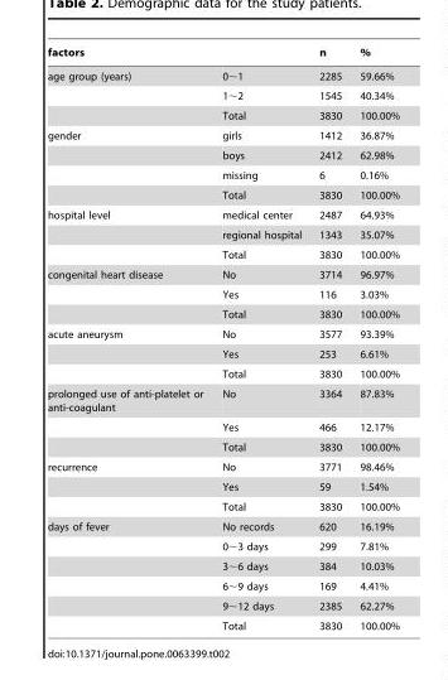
<table><thead><tr><td>factors</td><td></td><td>n</td><td>%</td></tr></thead><tbody><tr><td rowspan="3">age group (years)</td><td>0∼1</td><td>2285</td><td>59.66%</td></tr><tr><td>1∼2</td><td>1545</td><td>40.34%</td></tr><tr><td>Total</td><td>3830</td><td>100.00%</td></tr><tr><td rowspan="4">gender</td><td>girls</td><td>1412</td><td>36.87%</td></tr><tr><td>boys</td><td>2412</td><td>62.98%</td></tr><tr><td>missing</td><td>6</td><td>0.16%</td></tr><tr><td>Total</td><td>3830</td><td>100.00%</td></tr><tr><td rowspan="3">hospital level</td><td>medical center</td><td>2487</td><td>64.93%</td></tr><tr><td>regional hospital</td><td>1343</td><td>35.07%</td></tr><tr><td>Total</td><td>3830</td><td>100.00%</td></tr><tr><td rowspan="3">congenital heart disease</td><td>No</td><td>3714</td><td>96.97%</td></tr><tr><td>Yes</td><td>116</td><td>3.03%</td></tr><tr><td>Total</td><td>3830</td><td>100.00%</td></tr><tr><td rowspan="3">acute aneurysm</td><td>No</td><td>3577</td><td>93.39%</td></tr><tr><td>Yes</td><td>253</td><td>6.61%</td></tr><tr><td>Total</td><td>3830</td><td>100.00%</td></tr><tr><td rowspan="3">prolonged use of anti-platelet or anti-coagulant</td><td>No</td><td>3364</td><td>87.83%</td></tr><tr><td>Yes</td><td>466</td><td>12.17%</td></tr><tr><td>Total</td><td>3830</td><td>100.00%</td></tr><tr><td rowspan="3">recurrence</td><td>No</td><td>3771</td><td>98.46%</td></tr><tr><td>Yes</td><td>59</td><td>1.54%</td></tr><tr><td>Total</td><td>3830</td><td>100.00%</td></tr><tr><td rowspan="6">days of fever</td><td>No records</td><td>620</td><td>16.19%</td></tr><tr><td>0∼3 days</td><td>299</td><td>7.81%</td></tr><tr><td>3∼6 days</td><td>384</td><td>10.03%</td></tr><tr><td>6∼9 days</td><td>169</td><td>4.41%</td></tr><tr><td>9∼12 days</td><td>2385</td><td>62.27%</td></tr><tr><td>Total</td><td>3830</td><td>100.00%</td></tr></tbody></table>